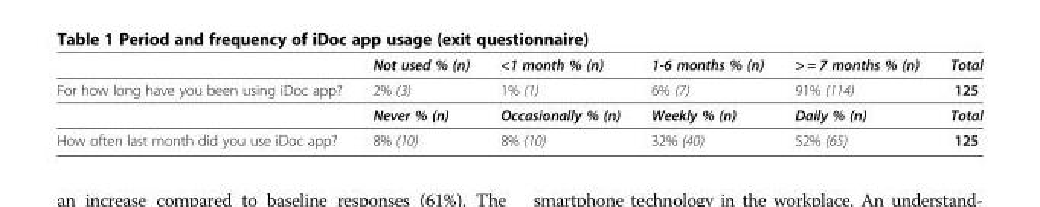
<table><thead><tr><td></td><td>Not used % (n)</td><td>&lt;1 month % (n)</td><td>1-6 months % (n)</td><td>&gt; = 7 months % (n)</td><td>Total</td></tr></thead><tbody><tr><td rowspan="2">For how long have you been using iDoc app?</td><td>2% (3)</td><td>1% (1)</td><td>6% (7)</td><td>91% (114)</td><td>125</td></tr><tr><td>Never % (n)</td><td>Occasionally % (n)</td><td>Weekly % (n)</td><td>Daily % (n)</td><td>Total</td></tr><tr><td>How often last month did you use iDoc app?</td><td>8% (10)</td><td>8% (10)</td><td>32% (40)</td><td>52% (65)</td><td>125</td></tr></tbody></table>